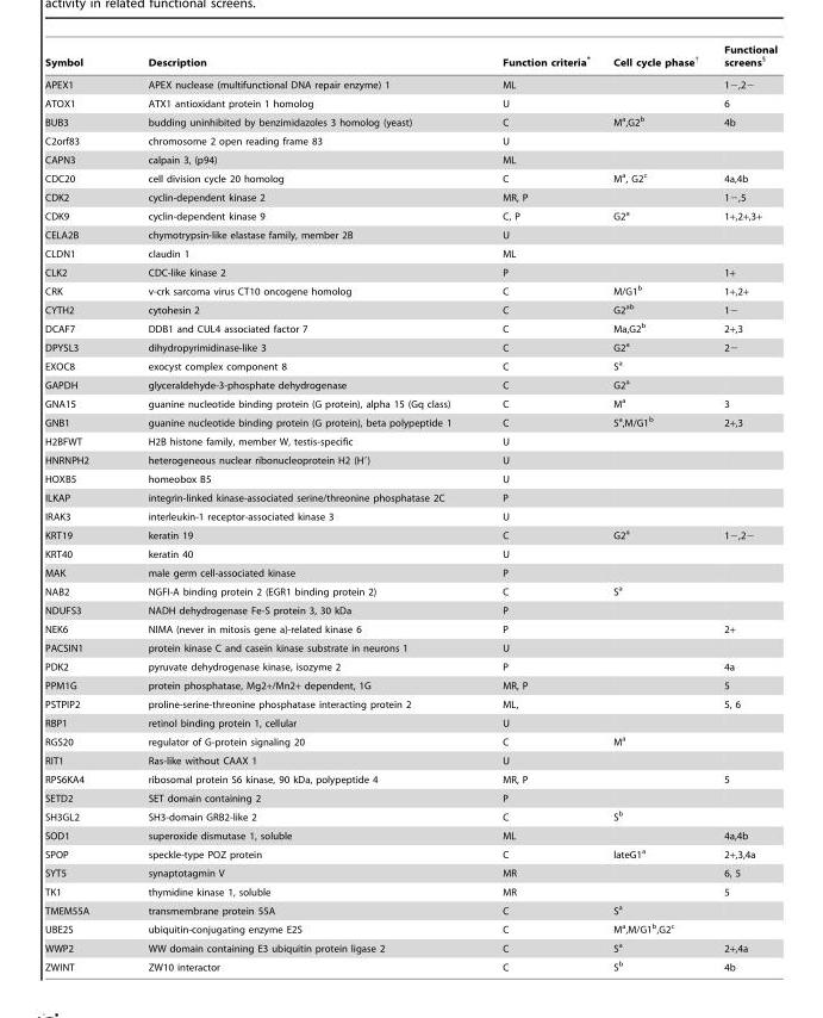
<table><thead><tr><td>Symbol</td><td>Description</td><td>Function criteria*</td><td>Cell cycle phase†</td><td>Functional screens§</td></tr></thead><tbody><tr><td>APEX1</td><td>APEX nuclease (multifunctional DNA repair enzyme) 1</td><td>ML</td><td></td><td>1−,2−</td></tr><tr><td>ATOX1</td><td>ATX1 antioxidant protein 1 homolog</td><td>U</td><td></td><td>6</td></tr><tr><td>BUB3</td><td>budding uninhibited by benzimidazoles 3 homolog (yeast)</td><td>C</td><td>M<sup>a</sup>,G2<sup>b</sup></td><td>4b</td></tr><tr><td>C2orf83</td><td>chromosome 2 open reading frame 83</td><td>U</td><td></td><td></td></tr><tr><td>CAPN3</td><td>calpain 3, (p94)</td><td>ML</td><td></td><td></td></tr><tr><td>CDC20</td><td>cell division cycle 20 homolog</td><td>C</td><td>M<sup>a</sup>, G2<sup>c</sup></td><td>4a,4b</td></tr><tr><td>CDK2</td><td>cyclin-dependent kinase 2</td><td>MR, P</td><td></td><td>1−,5</td></tr><tr><td>CDK9</td><td>cyclin-dependent kinase 9</td><td>C, P</td><td>G2<sup>a</sup></td><td>1+,2+,3+</td></tr><tr><td>CELA2B</td><td>chymotrypsin-like elastase family, member 2B</td><td>U</td><td></td><td></td></tr><tr><td>CLDN1</td><td>claudin 1</td><td>ML</td><td></td><td></td></tr><tr><td>CLK2</td><td>CDC-like kinase 2</td><td>P</td><td></td><td>1+</td></tr><tr><td>CRK</td><td>v-crk sarcoma virus CT10 oncogene homolog</td><td>C</td><td>M/G1<sup>b</sup></td><td>1+,2+</td></tr><tr><td>CYTH2</td><td>cytohesin 2</td><td>C</td><td>G2<sup>ab</sup></td><td>1−</td></tr><tr><td>DCAF7</td><td>DDB1 and CUL4 associated factor 7</td><td>C</td><td>Ma,G2<sup>b</sup></td><td>2+,3</td></tr><tr><td>DPYSL3</td><td>dihydropyrimidinase-like 3</td><td>C</td><td>G2<sup>a</sup></td><td>2−</td></tr><tr><td>EXOC8</td><td>exocyst complex component 8</td><td>C</td><td>S<sup>a</sup></td><td></td></tr><tr><td>GAPDH</td><td>glyceraldehyde-3-phosphate dehydrogenase</td><td>C</td><td>G2<sup>a</sup></td><td></td></tr><tr><td>GNA15</td><td>guanine nucleotide binding protein (G protein), alpha 15 (Gq class)</td><td>C</td><td>M<sup>a</sup></td><td>3</td></tr><tr><td>GNB1</td><td>guanine nucleotide binding protein (G protein), beta polypeptide 1</td><td>C</td><td>S<sup>a</sup>,M/G1<sup>b</sup></td><td>2+,3</td></tr><tr><td>H2BFWT</td><td>H2B histone family, member W, testis-specific</td><td>U</td><td></td><td></td></tr><tr><td>HNRNPH2</td><td>heterogeneous nuclear ribonucleoprotein H2 (H′)</td><td>U</td><td></td><td></td></tr><tr><td>HOXB5</td><td>homeobox B5</td><td>U</td><td></td><td></td></tr><tr><td>ILKAP</td><td>integrin-linked kinase-associated serine/threonine phosphatase 2C</td><td>P</td><td></td><td></td></tr><tr><td>IRAK3</td><td>interleukin-1 receptor-associated kinase 3</td><td>U</td><td></td><td></td></tr><tr><td>KRT19</td><td>keratin 19</td><td>C</td><td>G2<sup>a</sup></td><td>1−,2−</td></tr><tr><td>KRT40</td><td>keratin 40</td><td>U</td><td></td><td></td></tr><tr><td>MAK</td><td>male germ cell-associated kinase</td><td>P</td><td></td><td></td></tr><tr><td>NAB2</td><td>NGFI-A binding protein 2 (EGR1 binding protein 2)</td><td>C</td><td>S<sup>a</sup></td><td></td></tr><tr><td>NDUFS3</td><td>NADH dehydrogenase Fe-S protein 3, 30 kDa</td><td>P</td><td></td><td></td></tr><tr><td>NEK6</td><td>NIMA (never in mitosis gene a)-related kinase 6</td><td>P</td><td></td><td>2+</td></tr><tr><td>PACSIN1</td><td>protein kinase C and casein kinase substrate in neurons 1</td><td>U</td><td></td><td></td></tr><tr><td>PDK2</td><td>pyruvate dehydrogenase kinase, isozyme 2</td><td>P</td><td></td><td>4a</td></tr><tr><td>PPM1G</td><td>protein phosphatase, Mg2+/Mn2+ dependent, 1G</td><td>MR, P</td><td></td><td>5</td></tr><tr><td>PSTPIP2</td><td>proline-serine-threonine phosphatase interacting protein 2</td><td>ML,</td><td></td><td>5, 6</td></tr><tr><td>RBP1</td><td>retinol binding protein 1, cellular</td><td>U</td><td></td><td></td></tr><tr><td>RGS20</td><td>regulator of G-protein signaling 20</td><td>C</td><td>M<sup>a</sup></td><td></td></tr><tr><td>RIT1</td><td>Ras-like without CAAX 1</td><td>U</td><td></td><td></td></tr><tr><td>RPS6KA4</td><td>ribosomal protein S6 kinase, 90 kDa, polypeptide 4</td><td>MR, P</td><td></td><td>5</td></tr><tr><td>SETD2</td><td>SET domain containing 2</td><td>P</td><td></td><td></td></tr><tr><td>SH3GL2</td><td>SH3-domain GRB2-like 2</td><td>C</td><td>S<sup>b</sup></td><td></td></tr><tr><td>SOD1</td><td>superoxide dismutase 1, soluble</td><td>ML</td><td></td><td>4a,4b</td></tr><tr><td>SPOP</td><td>speckle-type POZ protein</td><td>C</td><td>lateG1<sup>a</sup></td><td>2+,3,4a</td></tr><tr><td>SYT5</td><td>synaptotagmin V</td><td>MR</td><td></td><td>6, 5</td></tr><tr><td>TK1</td><td>thymidine kinase 1, soluble</td><td>MR</td><td></td><td>5</td></tr><tr><td>TMEM55A</td><td>transmembrane protein 55A</td><td>C</td><td>S<sup>a</sup></td><td></td></tr><tr><td>UBE2S</td><td>ubiquitin-conjugating enzyme E2S</td><td>C</td><td>M<sup>a</sup>,M/G1<sup>b</sup>,G2<sup>c</sup></td><td></td></tr><tr><td>WWP2</td><td>WW domain containing E3 ubiquitin protein ligase 2</td><td>C</td><td>S<sup>a</sup></td><td>2+,4a</td></tr><tr><td>ZWINT</td><td>ZW10 interactor</td><td>C</td><td>S<sup>b</sup></td><td>4b</td></tr></tbody></table>